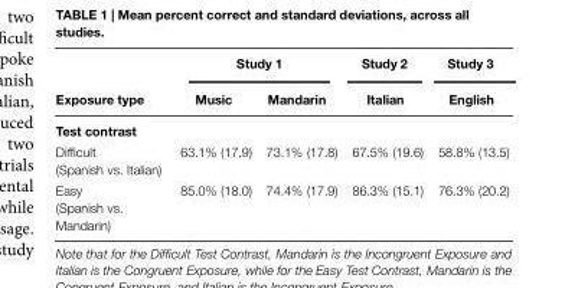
<table><thead><tr><td rowspan="2">Exposure type</td><td colspan="2">Study 1</td><td rowspan="2">Study 2 Italian</td><td rowspan="2">Study 3 English</td></tr><tr><td>Music</td><td>Mandarin</td></tr></thead><tbody><tr><td colspan="5">Test contrast</td></tr><tr><td>Difficult (Spanish vs. Italian)</td><td>63.1% (17.9)</td><td>73.1% (17.8)</td><td>67.5% (19.6)</td><td>58.8% (13.5)</td></tr><tr><td>Easy (Spanish vs. Mandarin)</td><td>85.0% (18.0)</td><td>74.4% (17.9)</td><td>86.3% (15.1)</td><td>76.3% (20.2)</td></tr></tbody></table>